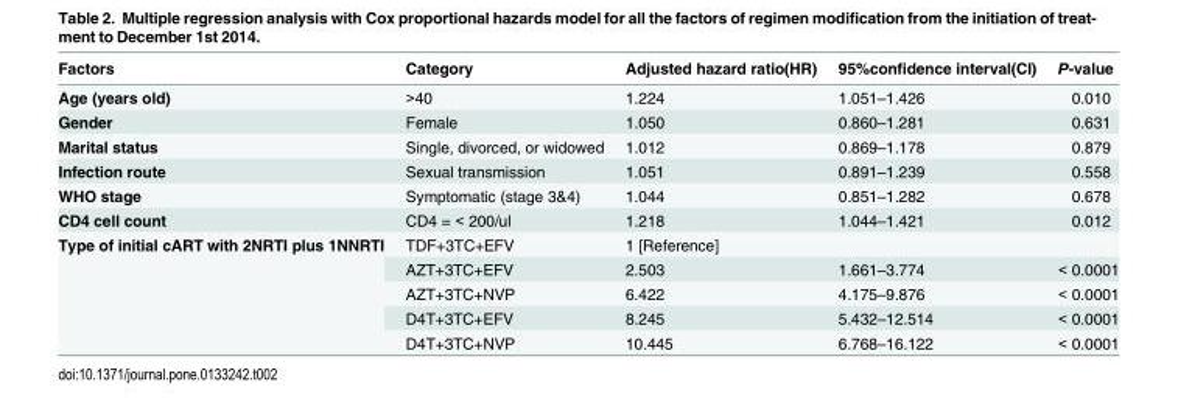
<table><thead><tr><td>Factors</td><td>Category</td><td>Adjusted hazard ratio(HR)</td><td>95%confidence interval(CI)</td><td>P-value</td></tr></thead><tbody><tr><td>Age (years old)</td><td>&gt;40</td><td>1.224</td><td>1.051–1.426</td><td>0.010</td></tr><tr><td>Gender</td><td>Female</td><td>1.050</td><td>0.860–1.281</td><td>0.631</td></tr><tr><td>Marital status</td><td>Single, divorced, or widowed</td><td>1.012</td><td>0.869–1.178</td><td>0.879</td></tr><tr><td>Infection route</td><td>Sexual transmission</td><td>1.051</td><td>0.891–1.239</td><td>0.558</td></tr><tr><td>WHO stage</td><td>Symptomatic (stage 3&amp;4)</td><td>1.044</td><td>0.851–1.282</td><td>0.678</td></tr><tr><td>CD4 cell count</td><td>CD4 = &lt; 200/ul</td><td>1.218</td><td>1.044–1.421</td><td>0.012</td></tr><tr><td rowspan="5">Type of initial cART with 2NRTI plus 1NNRTI</td><td>TDF+3TC+EFV</td><td>1 [Reference]</td><td></td><td></td></tr><tr><td>AZT+3TC+EFV</td><td>2.503</td><td>1.661–3.774</td><td>&lt; 0.0001</td></tr><tr><td>AZT+3TC+NVP</td><td>6.422</td><td>4.175–9.876</td><td>&lt; 0.0001</td></tr><tr><td>D4T+3TC+EFV</td><td>8.245</td><td>5.432–12.514</td><td>&lt; 0.0001</td></tr><tr><td>D4T+3TC+NVP</td><td>10.445</td><td>6.768–16.122</td><td>&lt; 0.0001</td></tr></tbody></table>